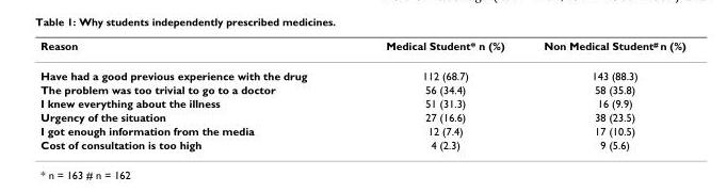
<table><thead><tr><td>Reason</td><td>Medical Student* n (%)</td><td>Non Medical Student# n (%)</td></tr></thead><tbody><tr><td>Have had a good previous experience with the drug</td><td>112 (68.7)</td><td>143 (88.3)</td></tr><tr><td>The problem was too trivial to go to a doctor</td><td>56 (34.4)</td><td>58 (35.8)</td></tr><tr><td>I knew everything about the illness</td><td>51 (31.3)</td><td>16 (9.9)</td></tr><tr><td>Urgency of the situation</td><td>27 (16.6)</td><td>38 (23.5)</td></tr><tr><td>I got enough information from the media</td><td>12 (7.4)</td><td>17 (10.5)</td></tr><tr><td>Cost of consultation is too high</td><td>4 (2.3)</td><td>9 (5.6)</td></tr></tbody></table>